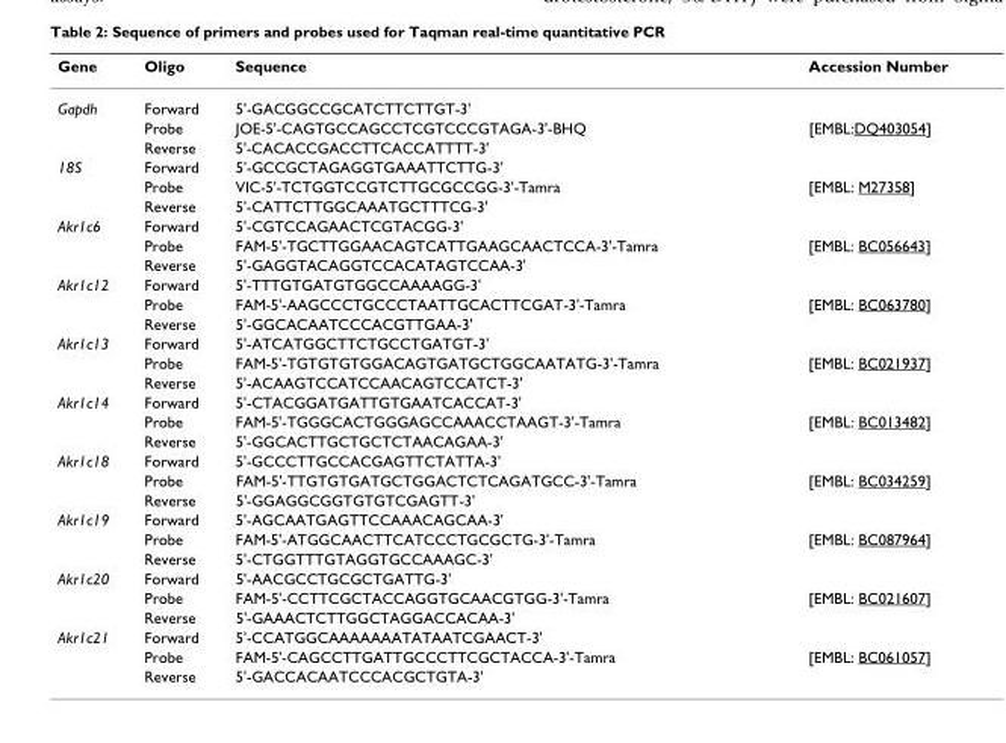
<table><thead><tr><td>Gene</td><td>Oligo</td><td>Sequence</td><td>Accession Number</td></tr></thead><tbody><tr><td rowspan="3">Gapdh</td><td>Forward</td><td>5&#x27;-GACGGCCGCATCTTCTTGT-3&#x27;</td><td></td></tr><tr><td>Probe</td><td>JOE-5&#x27;-CAGTGCCAGCCTCGTCCCGTAGA-3&#x27;-BHQ</td><td>[EMBL:DQ403054]</td></tr><tr><td>Reverse</td><td>5&#x27;-CACACCGACCTTCACCATTTT-3&#x27;</td><td></td></tr><tr><td rowspan="3">18S</td><td>Forward</td><td>5&#x27;-GCCGCTAGAGGTGAAATTCTTG-3&#x27;</td><td></td></tr><tr><td>Probe</td><td>VIC-5&#x27;-TCTGGTCCGTCTTGCGCCGG-3&#x27;-Tamra</td><td>[EMBL: M27358]</td></tr><tr><td>Reverse</td><td>5&#x27;-CATTCTTGGCAAATGCTTTCG-3&#x27;</td><td></td></tr><tr><td rowspan="3">Akr1c6</td><td>Forward</td><td>5&#x27;-CGTCCAGAACTCGTACGG-3&#x27;</td><td></td></tr><tr><td>Probe</td><td>FAM-5&#x27;-TGCTTGGAACAGTCATTGAAGCAACTCCA-3&#x27;-Tamra</td><td>[EMBL: BC056643]</td></tr><tr><td>Reverse</td><td>5&#x27;-GAGGTACAGGTCCACATAGTCCAA-3&#x27;</td><td></td></tr><tr><td rowspan="3">Akr1c12</td><td>Forward</td><td>5&#x27;-TTTGTGATGTGGCCAAAAGG-3&#x27;</td><td></td></tr><tr><td>Probe</td><td>FAM-5&#x27;-AAGCCCTGCCCTAATTGCACTTCGAT-3&#x27;-Tamra</td><td>[EMBL: BC063780]</td></tr><tr><td>Reverse</td><td>5&#x27;-GGCACAATCCCACGTTGAA-3&#x27;</td><td></td></tr><tr><td rowspan="3">Akr1c13</td><td>Forward</td><td>5&#x27;-ATCATGGCTTCTGCCTGATGT-3&#x27;</td><td></td></tr><tr><td>Probe</td><td>FAM-5&#x27;-TGTGTGTGGACAGTGATGCTGGCAATATG-3&#x27;-Tamra</td><td>[EMBL: BC021937]</td></tr><tr><td>Reverse</td><td>5&#x27;-ACAAGTCCATCCAACAGTCCATCT-3&#x27;</td><td></td></tr><tr><td rowspan="3">Akr1c14</td><td>Forward</td><td>5&#x27;-CTACGGATGATTGTGAATCACCAT-3&#x27;</td><td></td></tr><tr><td>Probe</td><td>FAM-5&#x27;-TGGGCACTGGGAGCCAAACCTAAGT-3&#x27;-Tamra</td><td>[EMBL: BC013482]</td></tr><tr><td>Reverse</td><td>5&#x27;-GGCACTTGCTGCTCTAACAGAA-3&#x27;</td><td></td></tr><tr><td rowspan="3">Akr1c18</td><td>Forward</td><td>5&#x27;-GCCCTTGCCACGAGTTCTATTA-3&#x27;</td><td></td></tr><tr><td>Probe</td><td>FAM-5&#x27;-TTGTGTGATGCTGGACTCTCAGATGCC-3&#x27;-Tamra</td><td>[EMBL: BC034259]</td></tr><tr><td>Reverse</td><td>5&#x27;-GGAGGCGGTGTGTCGAGTT-3&#x27;</td><td></td></tr><tr><td rowspan="3">Akr1c19</td><td>Forward</td><td>5&#x27;-AGCAATGAGTTCCAAACAGCAA-3&#x27;</td><td></td></tr><tr><td>Probe</td><td>FAM-5&#x27;-ATGGCAACTTCATCCCTGCGCTG-3&#x27;-Tamra</td><td>[EMBL: BC087964]</td></tr><tr><td>Reverse</td><td>5&#x27;-CTGGTTTGTAGGTGCCAAAGC-3&#x27;</td><td></td></tr><tr><td rowspan="3">Akr1c20</td><td>Forward</td><td>5&#x27;-AACGCCTGCGCTGATTG-3&#x27;</td><td></td></tr><tr><td>Probe</td><td>FAM-5&#x27;-CCTTCGCTACCAGGTGCAACGTGG-3&#x27;-Tamra</td><td>[EMBL: BC021607]</td></tr><tr><td>Reverse</td><td>5&#x27;-GAAACTCTTGGCTAGGACCACAA-3&#x27;</td><td></td></tr><tr><td rowspan="3">Akr1c21</td><td>Forward</td><td>5&#x27;-CCATGGCAAAAAAATATAATCGAACT-3&#x27;</td><td></td></tr><tr><td>Probe</td><td>FAM-5&#x27;-CAGCCTTGATTGCCCTTCGCTACCA-3&#x27;-Tamra</td><td>[EMBL: BC061057]</td></tr><tr><td>Reverse</td><td>5&#x27;-GACCACAATCCCACGCTGTA-3&#x27;</td><td></td></tr></tbody></table>